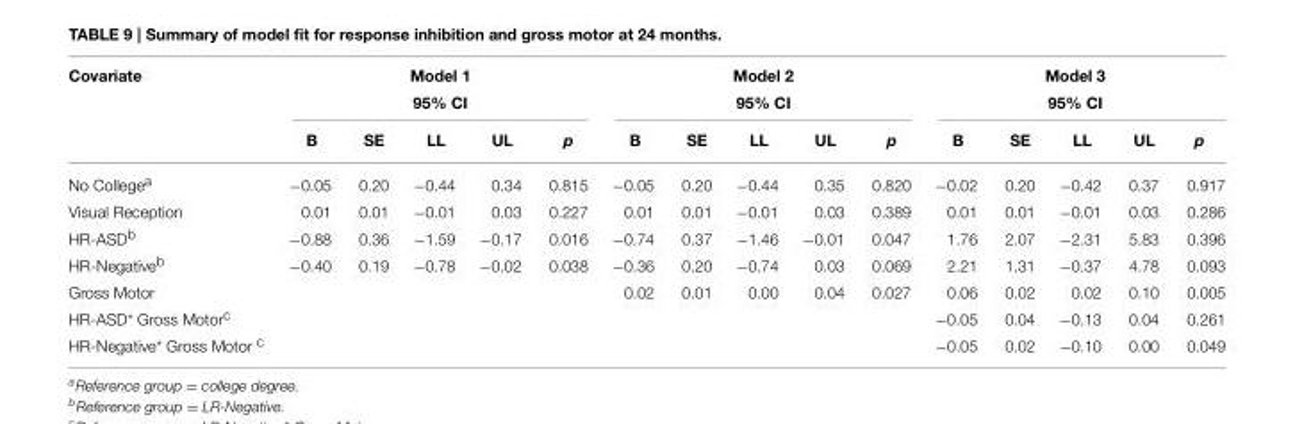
<table><thead><tr><td rowspan="2">Covariate</td><td colspan="5">Model 1 95% CI</td><td colspan="5">Model 2 95% CI</td><td colspan="5">Model 3 95% CI</td></tr><tr><td>B</td><td>SE</td><td>LL</td><td>UL</td><td>p</td><td>B</td><td>SE</td><td>LL</td><td>UL</td><td>p</td><td>B</td><td>SE</td><td>LL</td><td>UL</td><td>p</td></tr></thead><tbody><tr><td>No College<sup>a</sup></td><td>−0.05</td><td>0.20</td><td>−0.44</td><td>0.34</td><td>0.815</td><td>−0.05</td><td>0.20</td><td>−0.44</td><td>0.35</td><td>0.820</td><td>−0.02</td><td>0.20</td><td>−0.42</td><td>0.37</td><td>0.917</td></tr><tr><td>Visual Reception</td><td>0.01</td><td>0.01</td><td>−0.01</td><td>0.03</td><td>0.227</td><td>0.01</td><td>0.01</td><td>−0.01</td><td>0.03</td><td>0.389</td><td>0.01</td><td>0.01</td><td>−0.01</td><td>0.03</td><td>0.286</td></tr><tr><td>HR-ASD<sup>b</sup></td><td>−0.88</td><td>0.36</td><td>−1.59</td><td>−0.17</td><td>0.016</td><td>−0.74</td><td>0.37</td><td>−1.46</td><td>−0.01</td><td>0.047</td><td>1.76</td><td>2.07</td><td>−2.31</td><td>5.83</td><td>0.396</td></tr><tr><td>HR-Negative<sup>b</sup></td><td>−0.40</td><td>0.19</td><td>−0.78</td><td>−0.02</td><td>0.038</td><td>−0.36</td><td>0.20</td><td>−0.74</td><td>0.03</td><td>0.069</td><td>2.21</td><td>1.31</td><td>−0.37</td><td>4.78</td><td>0.093</td></tr><tr><td>Gross Motor</td><td></td><td></td><td></td><td></td><td></td><td>0.02</td><td>0.01</td><td>0.00</td><td>0.04</td><td>0.027</td><td>0.06</td><td>0.02</td><td>0.02</td><td>0.10</td><td>0.005</td></tr><tr><td>HR-ASD* Gross Motor<sup>c</sup></td><td></td><td></td><td></td><td></td><td></td><td></td><td></td><td></td><td></td><td></td><td>−0.05</td><td>0.04</td><td>−0.13</td><td>0.04</td><td>0.261</td></tr><tr><td>HR-Negative* Gross Motor <sup>c</sup></td><td></td><td></td><td></td><td></td><td></td><td></td><td></td><td></td><td></td><td></td><td>−0.05</td><td>0.02</td><td>−0.10</td><td>0.00</td><td>0.049</td></tr></tbody></table>